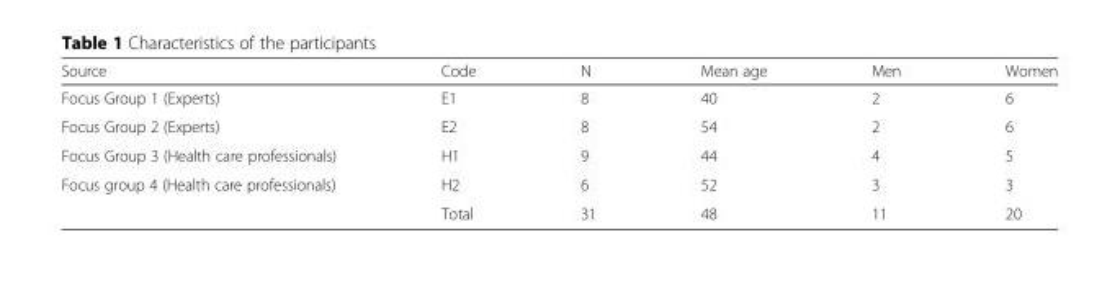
<table><thead><tr><td>Source</td><td>Code</td><td>N</td><td>Mean age</td><td>Men</td><td>Women</td></tr></thead><tbody><tr><td>Focus Group 1 (Experts)</td><td>E1</td><td>8</td><td>40</td><td>2</td><td>6</td></tr><tr><td>Focus Group 2 (Experts)</td><td>E2</td><td>8</td><td>54</td><td>2</td><td>6</td></tr><tr><td>Focus Group 3 (Health care professionals)</td><td>H1</td><td>9</td><td>44</td><td>4</td><td>5</td></tr><tr><td rowspan="2">Focus group 4 (Health care professionals)</td><td>H2</td><td>6</td><td>52</td><td>3</td><td>3</td></tr><tr><td>Total</td><td>31</td><td>48</td><td>11</td><td>20</td></tr></tbody></table>